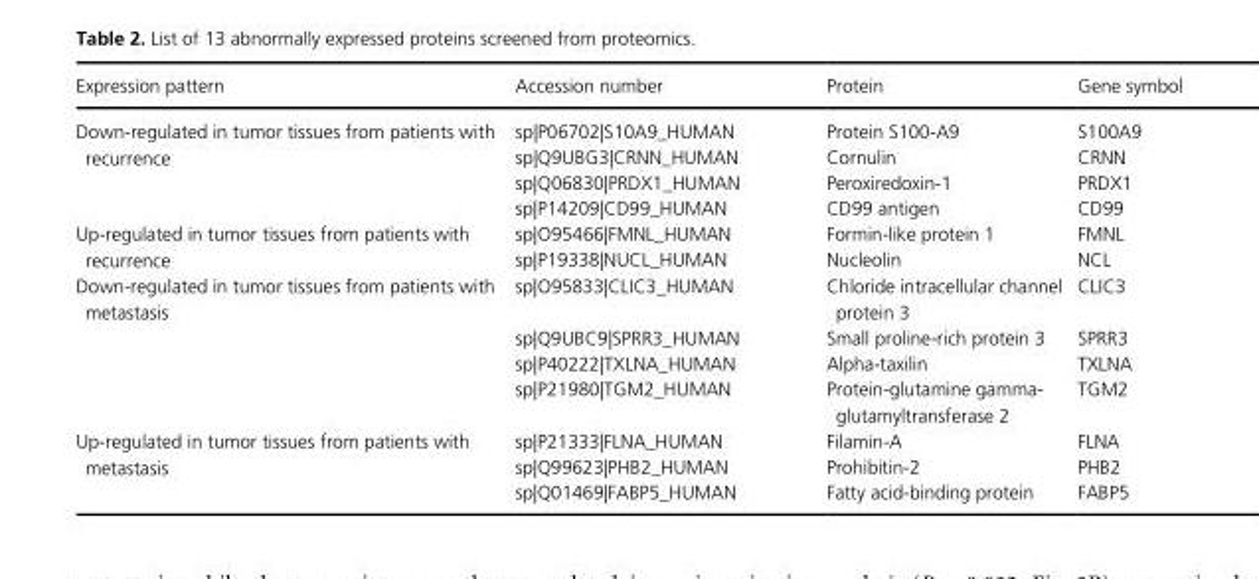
<table><thead><tr><td>Expression pattern</td><td>Accession number</td><td>Protein</td><td>Gene symbol</td></tr></thead><tbody><tr><td rowspan="4">Down- regulated in tumor tissues from patients with recurrence</td><td>sp|P06702|S10A9_HUMAN</td><td>Protein S100- A9</td><td>S100A9</td></tr><tr><td>sp|Q9UBG3|CRNN_HUMAN</td><td>Cornulin</td><td>CRNN</td></tr><tr><td>sp|Q06830|PRDX1_HUMAN</td><td>Peroxiredoxin- 1</td><td>PRDX1</td></tr><tr><td>sp|P14209|CD99_HUMAN</td><td>CD99 antigen</td><td>CD99</td></tr><tr><td rowspan="2">Up- regulated in tumor tissues from patients with recurrence</td><td>sp|O95466|FMNL_HUMAN</td><td>Formin- like protein 1</td><td>FMNL</td></tr><tr><td>sp|P19338|NUCL_HUMAN</td><td>Nucleolin</td><td>NCL</td></tr><tr><td rowspan="4">Down- regulated in tumor tissues from patients with metastasis</td><td>sp|O95833|CLIC3_HUMAN</td><td>Chloride intracellular channel protein 3</td><td>CLIC3</td></tr><tr><td>sp|Q9UBC9|SPRR3_HUMAN</td><td>Small proline- rich protein 3</td><td>SPRR3</td></tr><tr><td>sp|P40222|TXLNA_HUMAN</td><td>Alpha- taxilin</td><td>TXLNA</td></tr><tr><td>sp|P21980|TGM2_HUMAN</td><td>Protein- glutamine gamma- glutamyltransferase 2</td><td>TGM2</td></tr><tr><td rowspan="3">Up- regulated in tumor tissues from patients with metastasis</td><td>sp|P21333|FLNA_HUMAN</td><td>Filamin- A</td><td>FLNA</td></tr><tr><td>sp|Q99623|PHB2_HUMAN</td><td>Prohibitin- 2</td><td>PHB2</td></tr><tr><td>sp|Q01469|FABP5_HUMAN</td><td>Fatty acid- binding protein</td><td>FABP5</td></tr></tbody></table>